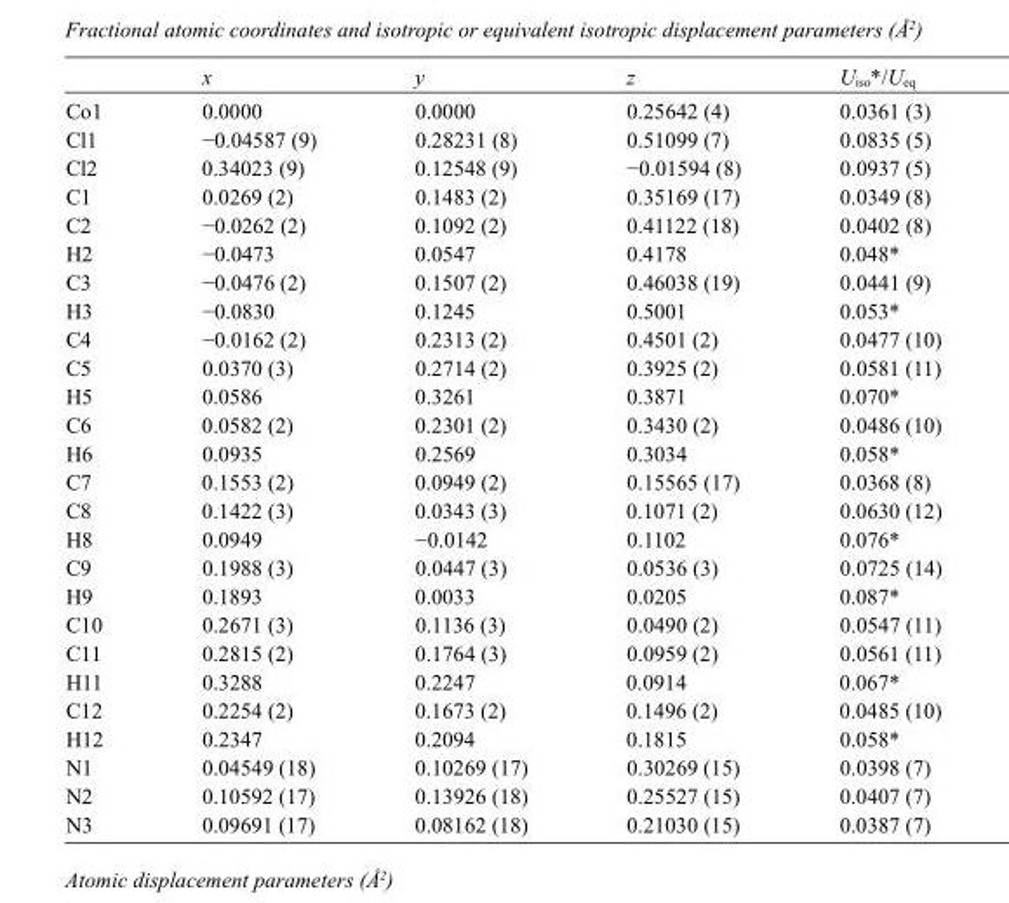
<table><thead><tr><td></td><td>x</td><td>y</td><td>z</td><td>U<sub>iso</sub>*/U<sub>eq</sub></td></tr></thead><tbody><tr><td>Co1</td><td>0.0000</td><td>0.0000</td><td>0.25642 (4)</td><td>0.0361 (3)</td></tr><tr><td>Cl1</td><td>−0.04587 (9)</td><td>0.28231 (8)</td><td>0.51099 (7)</td><td>0.0835 (5)</td></tr><tr><td>Cl2</td><td>0.34023 (9)</td><td>0.12548 (9)</td><td>−0.01594 (8)</td><td>0.0937 (5)</td></tr><tr><td>C1</td><td>0.0269 (2)</td><td>0.1483 (2)</td><td>0.35169 (17)</td><td>0.0349 (8)</td></tr><tr><td>C2</td><td>−0.0262 (2)</td><td>0.1092 (2)</td><td>0.41122 (18)</td><td>0.0402 (8)</td></tr><tr><td>H2</td><td>−0.0473</td><td>0.0547</td><td>0.4178</td><td>0.048*</td></tr><tr><td>C3</td><td>−0.0476 (2)</td><td>0.1507 (2)</td><td>0.46038 (19)</td><td>0.0441 (9)</td></tr><tr><td>H3</td><td>−0.0830</td><td>0.1245</td><td>0.5001</td><td>0.053*</td></tr><tr><td>C4</td><td>−0.0162 (2)</td><td>0.2313 (2)</td><td>0.4501 (2)</td><td>0.0477 (10)</td></tr><tr><td>C5</td><td>0.0370 (3)</td><td>0.2714 (2)</td><td>0.3925 (2)</td><td>0.0581 (11)</td></tr><tr><td>H5</td><td>0.0586</td><td>0.3261</td><td>0.3871</td><td>0.070*</td></tr><tr><td>C6</td><td>0.0582 (2)</td><td>0.2301 (2)</td><td>0.3430 (2)</td><td>0.0486 (10)</td></tr><tr><td>H6</td><td>0.0935</td><td>0.2569</td><td>0.3034</td><td>0.058*</td></tr><tr><td>C7</td><td>0.1553 (2)</td><td>0.0949 (2)</td><td>0.15565 (17)</td><td>0.0368 (8)</td></tr><tr><td>C8</td><td>0.1422 (3)</td><td>0.0343 (3)</td><td>0.1071 (2)</td><td>0.0630 (12)</td></tr><tr><td>H8</td><td>0.0949</td><td>−0.0142</td><td>0.1102</td><td>0.076*</td></tr><tr><td>C9</td><td>0.1988 (3)</td><td>0.0447 (3)</td><td>0.0536 (3)</td><td>0.0725 (14)</td></tr><tr><td>H9</td><td>0.1893</td><td>0.0033</td><td>0.0205</td><td>0.087*</td></tr><tr><td>C10</td><td>0.2671 (3)</td><td>0.1136 (3)</td><td>0.0490 (2)</td><td>0.0547 (11)</td></tr><tr><td>C11</td><td>0.2815 (2)</td><td>0.1764 (3)</td><td>0.0959 (2)</td><td>0.0561 (11)</td></tr><tr><td>H11</td><td>0.3288</td><td>0.2247</td><td>0.0914</td><td>0.067*</td></tr><tr><td>C12</td><td>0.2254 (2)</td><td>0.1673 (2)</td><td>0.1496 (2)</td><td>0.0485 (10)</td></tr><tr><td>H12</td><td>0.2347</td><td>0.2094</td><td>0.1815</td><td>0.058*</td></tr><tr><td>N1</td><td>0.04549 (18)</td><td>0.10269 (17)</td><td>0.30269 (15)</td><td>0.0398 (7)</td></tr><tr><td>N2</td><td>0.10592 (17)</td><td>0.13926 (18)</td><td>0.25527 (15)</td><td>0.0407 (7)</td></tr><tr><td>N3</td><td>0.09691 (17)</td><td>0.08162 (18)</td><td>0.21030 (15)</td><td>0.0387 (7)</td></tr></tbody></table>